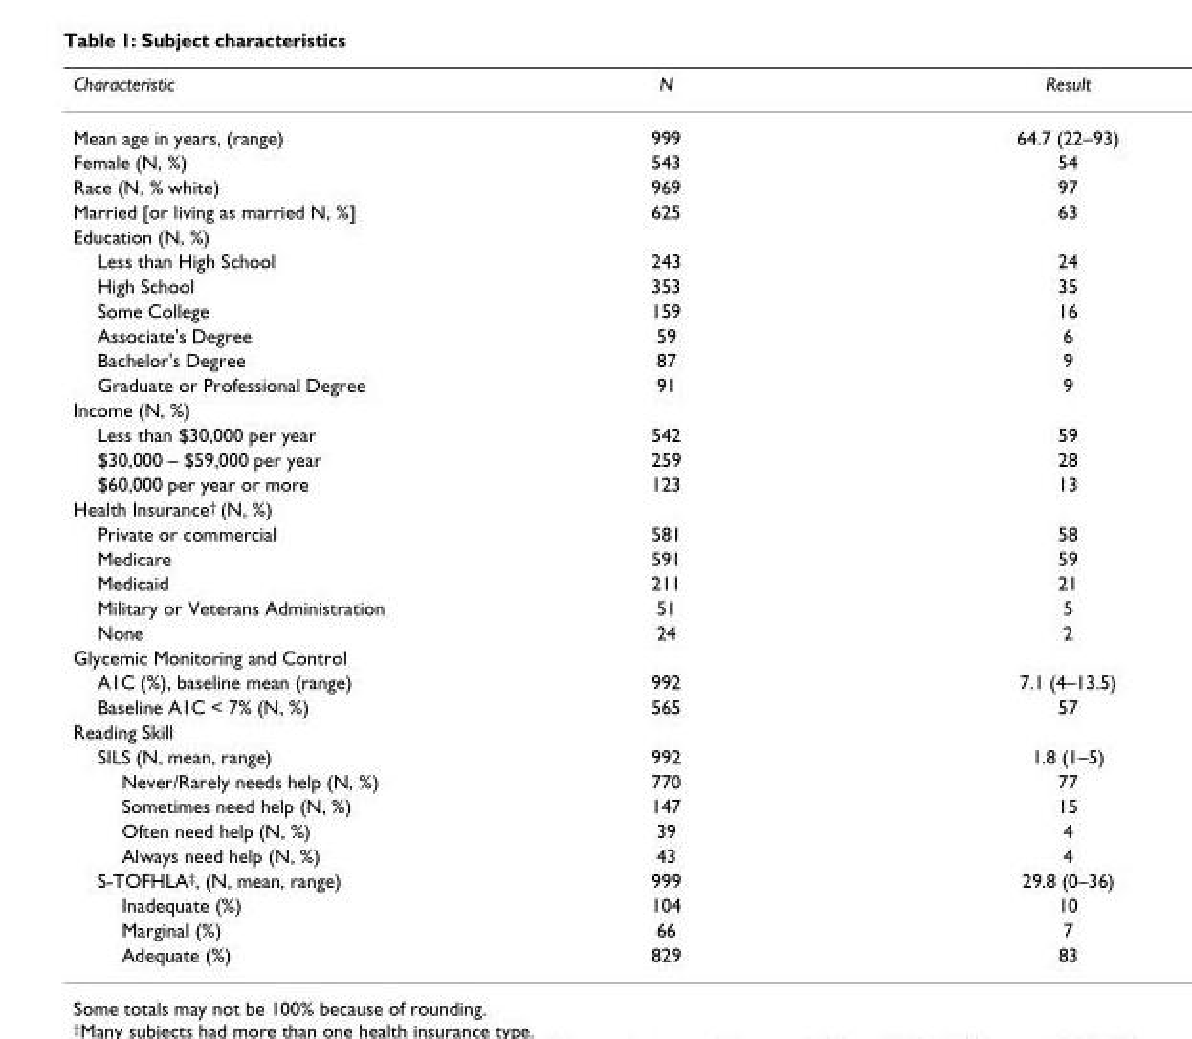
<table><thead><tr><td>Characteristic</td><td>N</td><td>Result</td></tr></thead><tbody><tr><td>Mean age in years, (range)</td><td>999</td><td>64.7 (22–93)</td></tr><tr><td>Female (N, %)</td><td>543</td><td>54</td></tr><tr><td>Race (N, % white)</td><td>969</td><td>97</td></tr><tr><td>Married [or living as married N, %]</td><td>625</td><td>63</td></tr><tr><td colspan="3">Education (N, %)</td></tr><tr><td>Less than High School</td><td>243</td><td>24</td></tr><tr><td>High School</td><td>353</td><td>35</td></tr><tr><td>Some College</td><td>159</td><td>16</td></tr><tr><td>Associate&#x27;s Degree</td><td>59</td><td>6</td></tr><tr><td>Bachelor&#x27;s Degree</td><td>87</td><td>9</td></tr><tr><td>Graduate or Professional Degree</td><td>91</td><td>9</td></tr><tr><td colspan="3">Income (N, %)</td></tr><tr><td>Less than $30,000 per year</td><td>542</td><td>59</td></tr><tr><td>$30,000 – $59,000 per year</td><td>259</td><td>28</td></tr><tr><td>$60,000 per year or more</td><td>123</td><td>13</td></tr><tr><td colspan="3">Health Insurance<sup>†</sup> (N, %)</td></tr><tr><td>Private or commercial</td><td>581</td><td>58</td></tr><tr><td>Medicare</td><td>591</td><td>59</td></tr><tr><td>Medicaid</td><td>211</td><td>21</td></tr><tr><td>Military or Veterans Administration</td><td>51</td><td>5</td></tr><tr><td>None</td><td>24</td><td>2</td></tr><tr><td colspan="3">Glycemic Monitoring and Control</td></tr><tr><td>A1C (%), baseline mean (range)</td><td>992</td><td>7.1 (4–13.5)</td></tr><tr><td>Baseline A1C &lt; 7% (N, %)</td><td>565</td><td>57</td></tr><tr><td colspan="3">Reading Skill</td></tr><tr><td>SILS (N, mean, range)</td><td>992</td><td>1.8 (1–5)</td></tr><tr><td>Never/Rarely needs help (N, %)</td><td>770</td><td>77</td></tr><tr><td>Sometimes need help (N, %)</td><td>147</td><td>15</td></tr><tr><td>Often need help (N, %)</td><td>39</td><td>4</td></tr><tr><td>Always need help (N, %)</td><td>43</td><td>4</td></tr><tr><td>S-TOFHLA<sup>‡</sup>, (N, mean, range)</td><td>999</td><td>29.8 (0–36)</td></tr><tr><td>Inadequate (%)</td><td>104</td><td>10</td></tr><tr><td>Marginal (%)</td><td>66</td><td>7</td></tr><tr><td>Adequate (%)</td><td>829</td><td>83</td></tr></tbody></table>